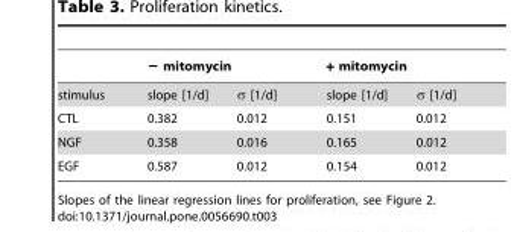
<table><thead><tr><td rowspan="2">stimulus</td><td colspan="2">− mitomycin</td><td colspan="2">+ mitomycin</td></tr><tr><td>slope [1/d]</td><td>σ [1/d]</td><td>slope [1/d]</td><td>σ [1/d]</td></tr></thead><tbody><tr><td>CTL</td><td>0.382</td><td>0.012</td><td>0.151</td><td>0.012</td></tr><tr><td>NGF</td><td>0.358</td><td>0.016</td><td>0.165</td><td>0.012</td></tr><tr><td>EGF</td><td>0.587</td><td>0.012</td><td>0.154</td><td>0.012</td></tr></tbody></table>